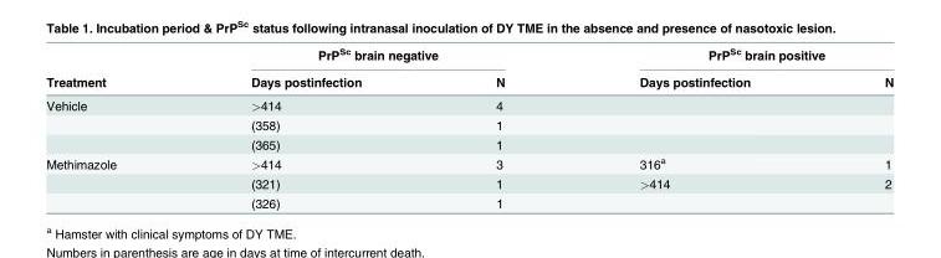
<table><thead><tr><td rowspan="2">Treatment</td><td colspan="2">PrP<sup>Sc</sup> brain negative</td><td colspan="2">PrP<sup>Sc</sup> brain positive</td></tr><tr><td>Days postinfection</td><td>N</td><td>Days postinfection</td><td>N</td></tr></thead><tbody><tr><td rowspan="3">Vehicle</td><td>&gt;414</td><td>4</td><td></td><td></td></tr><tr><td>(358)</td><td>1</td><td></td><td></td></tr><tr><td>(365)</td><td>1</td><td></td><td></td></tr><tr><td rowspan="3">Methimazole</td><td>&gt;414</td><td>3</td><td>316<sup>a</sup></td><td>1</td></tr><tr><td>(321)</td><td>1</td><td>&gt;414</td><td>2</td></tr><tr><td>(326)</td><td>1</td><td></td><td></td></tr></tbody></table>